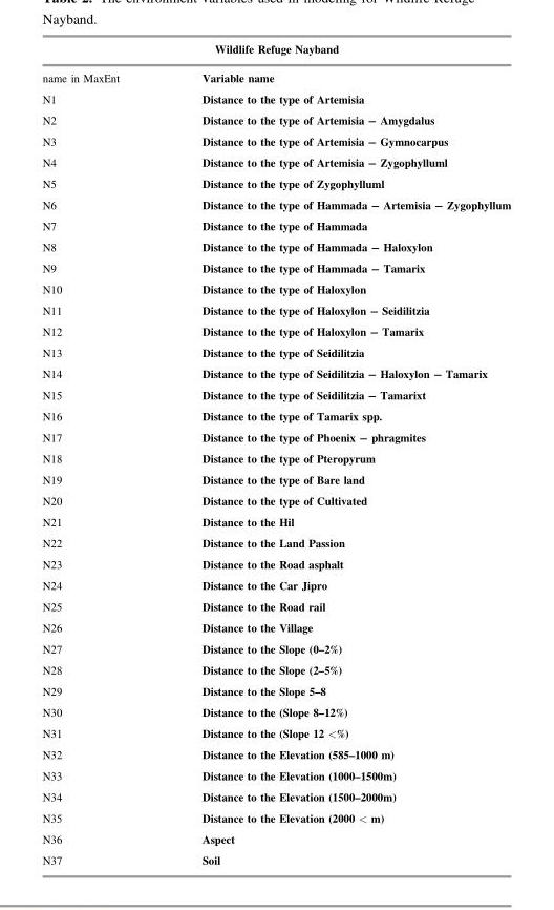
<table><thead><tr><td colspan="2">Wildlife Refuge Nayband</td></tr><tr><td>name in MaxEnt</td><td>Variable name</td></tr></thead><tbody><tr><td>N1</td><td>Distance to the type of Artemisia</td></tr><tr><td>N2</td><td>Distance to the type of Artemisia − Amygdalus</td></tr><tr><td>N3</td><td>Distance to the type of Artemisia − Gymnocarpus</td></tr><tr><td>N4</td><td>Distance to the type of Artemisia − Zygophylluml</td></tr><tr><td>N5</td><td>Distance to the type of Zygophylluml</td></tr><tr><td>N6</td><td>Distance to the type of Hammada − Artemisia − Zygophyllum</td></tr><tr><td>N7</td><td>Distance to the type of Hammada</td></tr><tr><td>N8</td><td>Distance to the type of Hammada − Haloxylon</td></tr><tr><td>N9</td><td>Distance to the type of Hammada − Tamarix</td></tr><tr><td>N10</td><td>Distance to the type of Haloxylon</td></tr><tr><td>N11</td><td>Distance to the type of Haloxylon − Seidilitzia</td></tr><tr><td>N12</td><td>Distance to the type of Haloxylon − Tamarix</td></tr><tr><td>N13</td><td>Distance to the type of Seidilitzia</td></tr><tr><td>N14</td><td>Distance to the type of Seidilitzia − Haloxylon − Tamarix</td></tr><tr><td>N15</td><td>Distance to the type of Seidilitzia − Tamarixt</td></tr><tr><td>N16</td><td>Distance to the type of Tamarix spp.</td></tr><tr><td>N17</td><td>Distance to the type of Phoenix − phragmites</td></tr><tr><td>N18</td><td>Distance to the type of Pteropyrum</td></tr><tr><td>N19</td><td>Distance to the type of Bare land</td></tr><tr><td>N20</td><td>Distance to the type of Cultivated</td></tr><tr><td>N21</td><td>Distance to the Hil</td></tr><tr><td>N22</td><td>Distance to the Land Passion</td></tr><tr><td>N23</td><td>Distance to the Road asphalt</td></tr><tr><td>N24</td><td>Distance to the Car Jipro</td></tr><tr><td>N25</td><td>Distance to the Road rail</td></tr><tr><td>N26</td><td>Distance to the Village</td></tr><tr><td>N27</td><td>Distance to the Slope (0–2%)</td></tr><tr><td>N28</td><td>Distance to the Slope (2–5%)</td></tr><tr><td>N29</td><td>Distance to the Slope 5–8</td></tr><tr><td>N30</td><td>Distance to the (Slope 8–12%)</td></tr><tr><td>N31</td><td>Distance to the (Slope 12 &lt;%)</td></tr><tr><td>N32</td><td>Distance to the Elevation (585–1000 m)</td></tr><tr><td>N33</td><td>Distance to the Elevation (1000–1500m)</td></tr><tr><td>N34</td><td>Distance to the Elevation (1500–2000m)</td></tr><tr><td>N35</td><td>Distance to the Elevation (2000 &lt; m)</td></tr><tr><td>N36</td><td>Aspect</td></tr><tr><td>N37</td><td>Soil</td></tr></tbody></table>